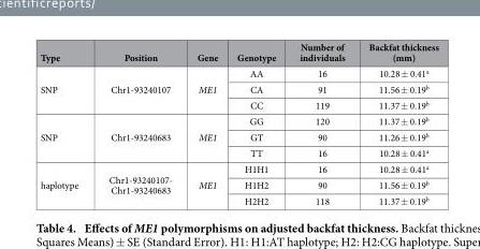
<table><thead><tr><td>Type</td><td>Position</td><td>Gene</td><td>Genotype</td><td>Number of individuals</td><td>Backfat thickness (mm)</td></tr></thead><tbody><tr><td rowspan="3">SNP</td><td rowspan="3">Chr1-93240107</td><td rowspan="3">ME1</td><td>AA</td><td>16</td><td>10.28 ± 0.41<sup>a</sup></td></tr><tr><td>CA</td><td>91</td><td>11.56 ± 0.19<sup>b</sup></td></tr><tr><td>CC</td><td>119</td><td>11.37 ± 0.19<sup>b</sup></td></tr><tr><td rowspan="3">SNP</td><td rowspan="3">Chr1-93240683</td><td rowspan="3">ME1</td><td>GG</td><td>120</td><td>11.37 ± 0.19<sup>b</sup></td></tr><tr><td>GT</td><td>90</td><td>11.26 ± 0.19<sup>b</sup></td></tr><tr><td>TT</td><td>16</td><td>10.28 ± 0.41<sup>a</sup></td></tr><tr><td rowspan="3">haplotype</td><td rowspan="3">Chr1-93240107- Chr1-93240683</td><td rowspan="3">ME1</td><td>H1H1</td><td>16</td><td>10.28 ± 0.41<sup>a</sup></td></tr><tr><td>H1H2</td><td>90</td><td>11.56 ± 0.19<sup>b</sup></td></tr><tr><td>H2H2</td><td>118</td><td>11.37 ± 0.19<sup>b</sup></td></tr></tbody></table>